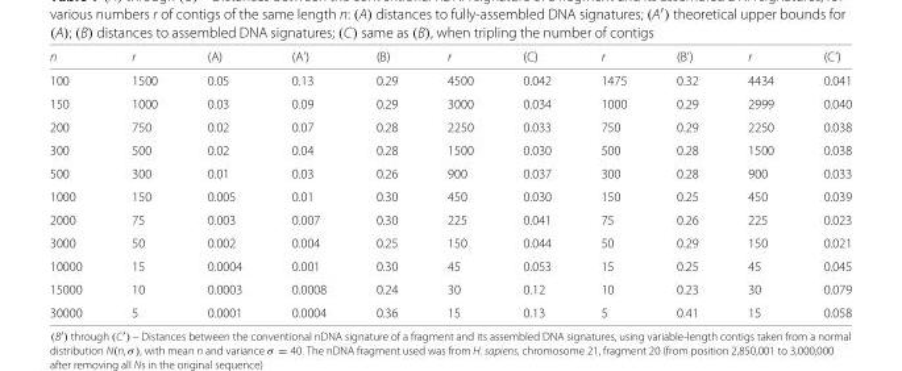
<table><thead><tr><td>n</td><td>r</td><td>(A)</td><td>(A’)</td><td>(B)</td><td>r</td><td>(C)</td><td>r</td><td>(B’)</td><td>r</td><td>(C’)</td></tr></thead><tbody><tr><td>100</td><td>1500</td><td>0.05</td><td>0.13</td><td>0.29</td><td>4500</td><td>0.042</td><td>1475</td><td>0.32</td><td>4434</td><td>0.041</td></tr><tr><td>150</td><td>1000</td><td>0.03</td><td>0.09</td><td>0.29</td><td>3000</td><td>0.034</td><td>1000</td><td>0.29</td><td>2999</td><td>0.040</td></tr><tr><td>200</td><td>750</td><td>0.02</td><td>0.07</td><td>0.28</td><td>2250</td><td>0.033</td><td>750</td><td>0.29</td><td>2250</td><td>0.038</td></tr><tr><td>300</td><td>500</td><td>0.02</td><td>0.04</td><td>0.28</td><td>1500</td><td>0.030</td><td>500</td><td>0.28</td><td>1500</td><td>0.038</td></tr><tr><td>500</td><td>300</td><td>0.01</td><td>0.03</td><td>0.26</td><td>900</td><td>0.037</td><td>300</td><td>0.28</td><td>900</td><td>0.033</td></tr><tr><td>1000</td><td>150</td><td>0.005</td><td>0.01</td><td>0.30</td><td>450</td><td>0.030</td><td>150</td><td>0.25</td><td>450</td><td>0.039</td></tr><tr><td>2000</td><td>75</td><td>0.003</td><td>0.007</td><td>0.30</td><td>225</td><td>0.041</td><td>75</td><td>0.26</td><td>225</td><td>0.023</td></tr><tr><td>3000</td><td>50</td><td>0.002</td><td>0.004</td><td>0.25</td><td>150</td><td>0.044</td><td>50</td><td>0.29</td><td>150</td><td>0.021</td></tr><tr><td>10000</td><td>15</td><td>0.0004</td><td>0.001</td><td>0.30</td><td>45</td><td>0.053</td><td>15</td><td>0.25</td><td>45</td><td>0.045</td></tr><tr><td>15000</td><td>10</td><td>0.0003</td><td>0.0008</td><td>0.24</td><td>30</td><td>0.12</td><td>10</td><td>0.23</td><td>30</td><td>0.079</td></tr><tr><td>30000</td><td>5</td><td>0.0001</td><td>0.0004</td><td>0.36</td><td>15</td><td>0.13</td><td>5</td><td>0.41</td><td>15</td><td>0.058</td></tr></tbody></table>